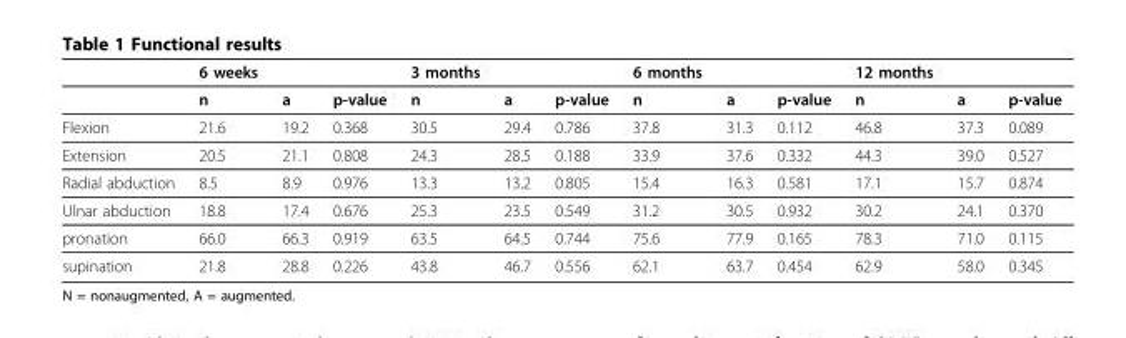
<table><thead><tr><td></td><td>6 weeks</td><td></td><td></td><td>3 months</td><td></td><td></td><td>6 months</td><td></td><td></td><td>12 months</td><td></td><td></td></tr></thead><tbody><tr><td></td><td>n</td><td>a</td><td>p-value</td><td>n</td><td>a</td><td>p-value</td><td>n</td><td>a</td><td>p-value</td><td>n</td><td>a</td><td>p-value</td></tr><tr><td>Flexion</td><td>21.6</td><td>19.2</td><td>0.368</td><td>30.5</td><td>29.4</td><td>0.786</td><td>37.8</td><td>31.3</td><td>0.112</td><td>46.8</td><td>37.3</td><td>0.089</td></tr><tr><td>Extension</td><td>20.5</td><td>21.1</td><td>0.808</td><td>24.3</td><td>28.5</td><td>0.188</td><td>33.9</td><td>37.6</td><td>0.332</td><td>44.3</td><td>39.0</td><td>0.527</td></tr><tr><td>Radial abduction</td><td>8.5</td><td>8.9</td><td>0.976</td><td>13.3</td><td>13.2</td><td>0.805</td><td>15.4</td><td>16.3</td><td>0.581</td><td>17.1</td><td>15.7</td><td>0.874</td></tr><tr><td>Ulnar abduction</td><td>18.8</td><td>17.4</td><td>0.676</td><td>25.3</td><td>23.5</td><td>0.549</td><td>31.2</td><td>30.5</td><td>0.932</td><td>30.2</td><td>24.1</td><td>0.370</td></tr><tr><td>pronation</td><td>66.0</td><td>66.3</td><td>0.919</td><td>63.5</td><td>64.5</td><td>0.744</td><td>75.6</td><td>77.9</td><td>0.165</td><td>78.3</td><td>71.0</td><td>0.115</td></tr><tr><td>supination</td><td>21.8</td><td>28.8</td><td>0.226</td><td>43.8</td><td>46.7</td><td>0.556</td><td>62.1</td><td>63.7</td><td>0.454</td><td>62.9</td><td>58.0</td><td>0.345</td></tr></tbody></table>